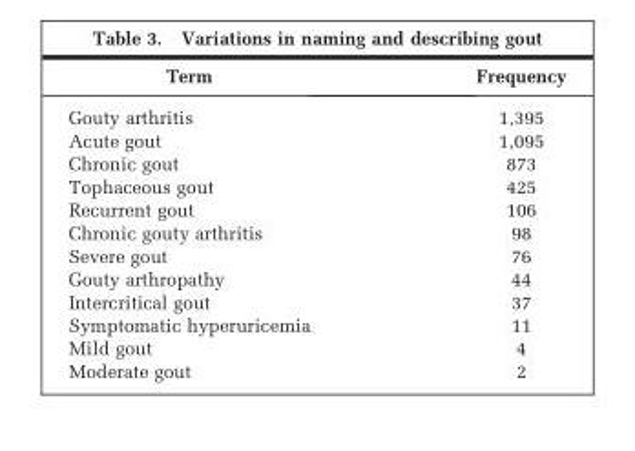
<table><thead><tr><td>Term</td><td>Frequency</td></tr></thead><tbody><tr><td>Gouty arthritis</td><td>1,395</td></tr><tr><td>Acute gout</td><td>1,095</td></tr><tr><td>Chronic gout</td><td>873</td></tr><tr><td>Tophaceous gout</td><td>425</td></tr><tr><td>Recurrent gout</td><td>106</td></tr><tr><td>Chronic gouty arthritis</td><td>98</td></tr><tr><td>Severe gout</td><td>76</td></tr><tr><td>Gouty arthropathy</td><td>44</td></tr><tr><td>Intercritical gout</td><td>37</td></tr><tr><td>Symptomatic hyperuricemia</td><td>11</td></tr><tr><td>Mild gout</td><td>4</td></tr><tr><td>Moderate gout</td><td>2</td></tr></tbody></table>